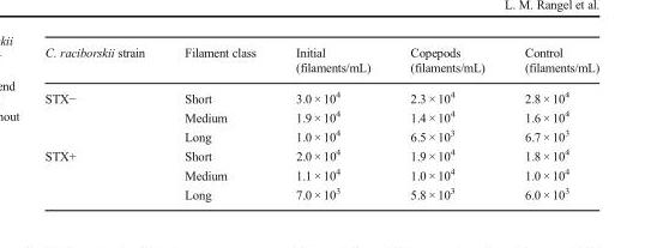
<table><thead><tr><td>C. raciborskii strain</td><td>Filament class</td><td>Initial (filaments/mL)</td><td>Copepods (filaments/mL)</td><td>Control (filaments/mL)</td></tr></thead><tbody><tr><td rowspan="3">STX−</td><td>Short</td><td>3.0 × 10<sup>4</sup></td><td>2.3 × 10<sup>4</sup></td><td>2.8 × 10<sup>4</sup></td></tr><tr><td>Medium</td><td>1.9 × 10<sup>4</sup></td><td>1.4 × 10<sup>4</sup></td><td>1.6 × 10<sup>4</sup></td></tr><tr><td>Long</td><td>1.0 × 10<sup>4</sup></td><td>6.5 × 10<sup>3</sup></td><td>6.7 × 10<sup>3</sup></td></tr><tr><td rowspan="3">STX+</td><td>Short</td><td>2.0 × 10<sup>4</sup></td><td>1.9 × 10<sup>4</sup></td><td>1.8 × 10<sup>4</sup></td></tr><tr><td>Medium</td><td>1.1 × 10<sup>4</sup></td><td>1.0 × 10<sup>4</sup></td><td>1.0 × 10<sup>4</sup></td></tr><tr><td>Long</td><td>7.0 × 10<sup>3</sup></td><td>5.8 × 10<sup>3</sup></td><td>6.0 × 10<sup>3</sup></td></tr></tbody></table>